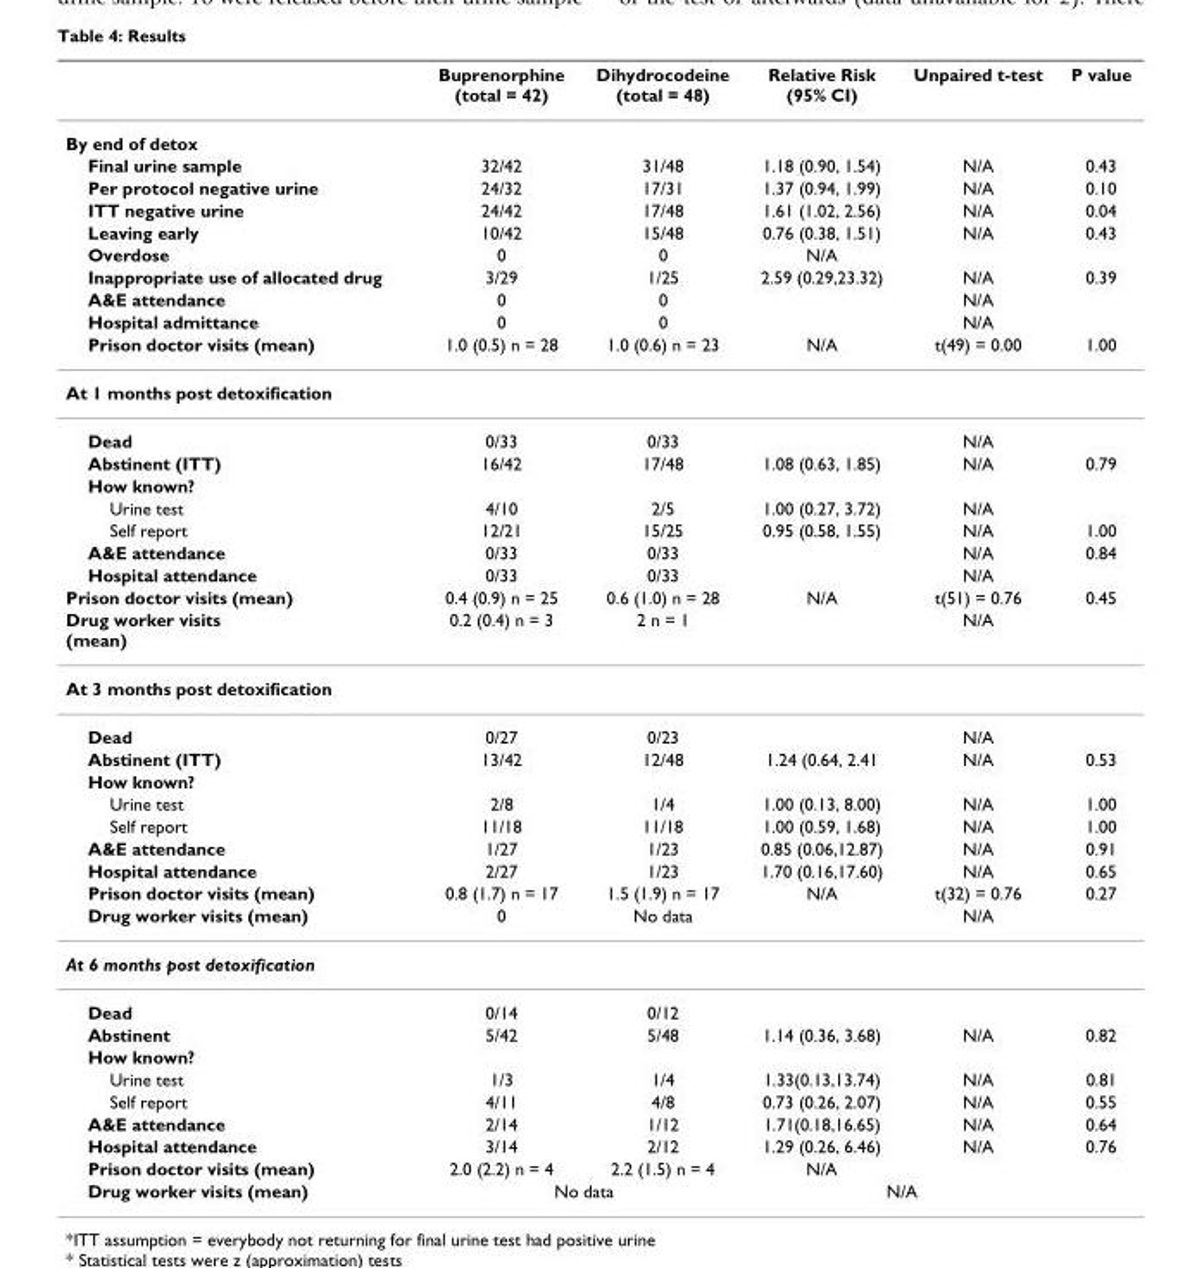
<table><thead><tr><td></td><td>Buprenorphine (total = 42)</td><td>Dihydrocodeine (total = 48)</td><td>Relative Risk (95% CI)</td><td>Unpaired t-test</td><td>P value</td></tr></thead><tbody><tr><td colspan="6">By end of detox</td></tr><tr><td>Final urine sample</td><td>32/42</td><td>31/48</td><td>1.18 (0.90, 1.54)</td><td>N/A</td><td>0.43</td></tr><tr><td>Per protocol negative urine</td><td>24/32</td><td>17/31</td><td>1.37 (0.94, 1.99)</td><td>N/A</td><td>0.10</td></tr><tr><td>ITT negative urine</td><td>24/42</td><td>17/48</td><td>1.61 (1.02, 2.56)</td><td>N/A</td><td>0.04</td></tr><tr><td>Leaving early</td><td>10/42</td><td>15/48</td><td>0.76 (0.38, 1.51)</td><td>N/A</td><td>0.43</td></tr><tr><td>Overdose</td><td>0</td><td>0</td><td>N/A</td><td></td><td></td></tr><tr><td>Inappropriate use of allocated drug</td><td>3/29</td><td>1/25</td><td>2.59 (0.29,23.32)</td><td>N/A</td><td>0.39</td></tr><tr><td>A&amp;E attendance</td><td>0</td><td>0</td><td></td><td>N/A</td><td></td></tr><tr><td>Hospital admittance</td><td>0</td><td>0</td><td></td><td>N/A</td><td></td></tr><tr><td>Prison doctor visits (mean)</td><td>1.0 (0.5) n = 28</td><td>1.0 (0.6) n = 23</td><td>N/A</td><td>t(49) = 0.00</td><td>1.00</td></tr><tr><td colspan="6">At 1 months post detoxification</td></tr><tr><td>Dead</td><td>0/33</td><td>0/33</td><td></td><td>N/A</td><td></td></tr><tr><td>Abstinent (ITT)</td><td>16/42</td><td>17/48</td><td>1.08 (0.63, 1.85)</td><td>N/A</td><td>0.79</td></tr><tr><td colspan="6">How known?</td></tr><tr><td>Urine test</td><td>4/10</td><td>2/5</td><td>1.00 (0.27, 3.72)</td><td>N/A</td><td></td></tr><tr><td>Self report</td><td>12/21</td><td>15/25</td><td>0.95 (0.58, 1.55)</td><td>N/A</td><td>1.00</td></tr><tr><td>A&amp;E attendance</td><td>0/33</td><td>0/33</td><td></td><td>N/A</td><td>0.84</td></tr><tr><td>Hospital attendance</td><td>0/33</td><td>0/33</td><td></td><td>N/A</td><td></td></tr><tr><td>Prison doctor visits (mean)</td><td>0.4 (0.9) n = 25</td><td>0.6 (1.0) n = 28</td><td>N/A</td><td>t(51) = 0.76</td><td>0.45</td></tr><tr><td>Drug worker visits (mean)</td><td>0.2 (0.4) n = 3</td><td>2 n = 1</td><td></td><td>N/A</td><td></td></tr><tr><td colspan="6">At 3 months post detoxification</td></tr><tr><td>Dead</td><td>0/27</td><td>0/23</td><td></td><td>N/A</td><td></td></tr><tr><td>Abstinent (ITT)</td><td>13/42</td><td>12/48</td><td>1.24 (0.64, 2.41</td><td>N/A</td><td>0.53</td></tr><tr><td colspan="6">How known?</td></tr><tr><td>Urine test</td><td>2/8</td><td>1/4</td><td>1.00 (0.13, 8.00)</td><td>N/A</td><td>1.00</td></tr><tr><td>Self report</td><td>11/18</td><td>11/18</td><td>1.00 (0.59, 1.68)</td><td>N/A</td><td>1.00</td></tr><tr><td>A&amp;E attendance</td><td>1/27</td><td>1/23</td><td>0.85 (0.06,12.87)</td><td>N/A</td><td>0.91</td></tr><tr><td>Hospital attendance</td><td>2/27</td><td>1/23</td><td>1.70 (0.16,17.60)</td><td>N/A</td><td>0.65</td></tr><tr><td>Prison doctor visits (mean)</td><td>0.8 (1.7) n = 17</td><td>1.5 (1.9) n = 17</td><td>N/A</td><td>t(32) = 0.76</td><td>0.27</td></tr><tr><td>Drug worker visits (mean)</td><td>0</td><td>No data</td><td></td><td>N/A</td><td></td></tr><tr><td colspan="6">At 6 months post detoxification</td></tr><tr><td>Dead</td><td>0/14</td><td>0/12</td><td></td><td></td><td></td></tr><tr><td>Abstinent</td><td>5/42</td><td>5/48</td><td>1.14 (0.36, 3.68)</td><td>N/A</td><td>0.82</td></tr><tr><td colspan="6">How known?</td></tr><tr><td>Urine test</td><td>1/3</td><td>1/4</td><td>1.33(0.13,13.74)</td><td>N/A</td><td>0.81</td></tr><tr><td>Self report</td><td>4/11</td><td>4/8</td><td>0.73 (0.26, 2.07)</td><td>N/A</td><td>0.55</td></tr><tr><td>A&amp;E attendance</td><td>2/14</td><td>1/12</td><td>1.71(0.18,16.65)</td><td>N/A</td><td>0.64</td></tr><tr><td>Hospital attendance</td><td>3/14</td><td>2/12</td><td>1.29 (0.26, 6.46)</td><td>N/A</td><td>0.76</td></tr><tr><td>Prison doctor visits (mean)</td><td>2.0 (2.2) n = 4</td><td>2.2 (1.5) n = 4</td><td>N/A</td><td></td><td></td></tr><tr><td>Drug worker visits (mean)</td><td colspan="2">No data</td><td colspan="2">N/A</td><td></td></tr></tbody></table>